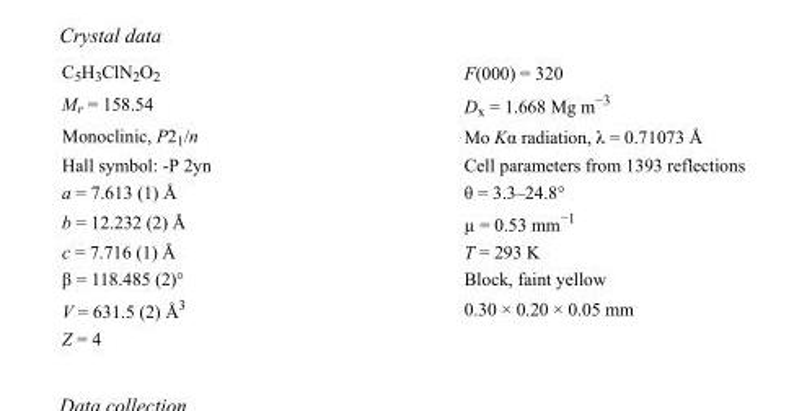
<table><tbody><tr><td>C<sub>5</sub>H<sub>3</sub>ClN<sub>2</sub>O<sub>2</sub></td><td>F(000) = 320</td></tr><tr><td>M<sub>r</sub> = 158.54</td><td>D<sub>x</sub> = 1.668 Mg m<sup>−3</sup></td></tr><tr><td>Monoclinic, P2<sub>1</sub>/n</td><td>Mo Kα radiation, λ = 0.71073 Å</td></tr><tr><td>Hall symbol: -P 2yn</td><td>Cell parameters from 1393 reflections</td></tr><tr><td>a = 7.613 (1) Å</td><td>θ = 3.3–24.8°</td></tr><tr><td>b = 12.232 (2) Å</td><td>µ = 0.53 mm<sup>−1</sup></td></tr><tr><td>c = 7.716 (1) Å</td><td>T = 293 K</td></tr><tr><td>β = 118.485 (2)°</td><td>Block, faint yellow</td></tr><tr><td>V = 631.5 (2) Å<sup>3</sup></td><td>0.30 × 0.20 × 0.05 mm</td></tr><tr><td>Z = 4</td><td></td></tr></tbody></table>